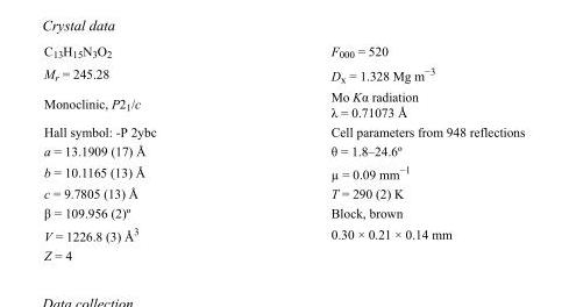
<table><tbody><tr><td>C<sub>13</sub>H<sub>15</sub>N<sub>3</sub>O<sub>2</sub></td><td>F000 = 520</td></tr><tr><td>M<sub>r</sub> = 245.28</td><td>D<sub>x</sub> = 1.328 Mg m<sup>−3</sup></td></tr><tr><td>Monoclinic, P2<sub>1</sub>/c</td><td>Mo Kα radiation λ = 0.71073 Å</td></tr><tr><td>Hall symbol: -P 2ybc</td><td>Cell parameters from 948 reflections</td></tr><tr><td>a = 13.1909 (17) Å</td><td>θ = 1.8–24.6º</td></tr><tr><td>b = 10.1165 (13) Å</td><td>µ = 0.09 mm<sup>−1</sup></td></tr><tr><td>c = 9.7805 (13) Å</td><td>T = 290 (2) K</td></tr><tr><td>β = 109.956 (2)º</td><td>Block, brown</td></tr><tr><td>V = 1226.8 (3) Å<sup>3</sup></td><td>0.30 × 0.21 × 0.14 mm</td></tr><tr><td>Z = 4</td><td></td></tr></tbody></table>